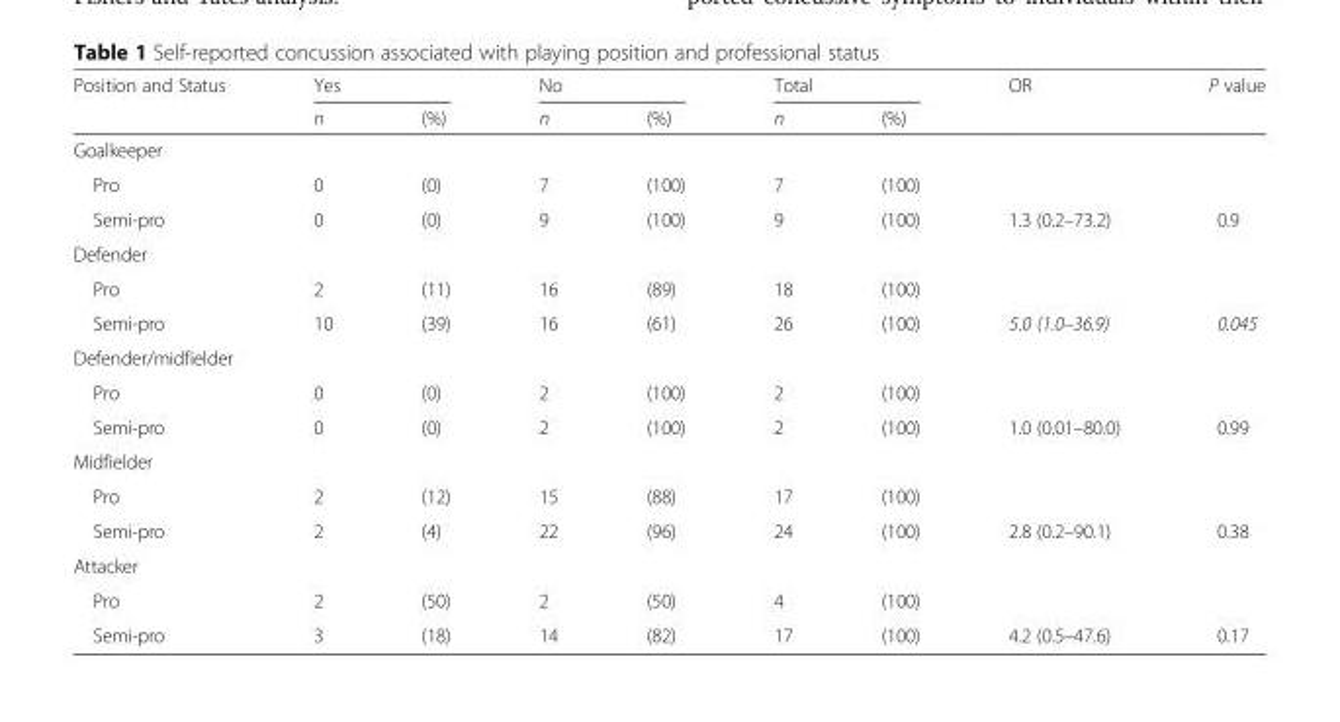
<table><thead><tr><td rowspan="2">Position and Status</td><td colspan="2">Yes</td><td colspan="2">No</td><td colspan="2">Total</td><td rowspan="2">OR</td><td rowspan="2">P value</td></tr><tr><td>n</td><td>(%)</td><td>n</td><td>(%)</td><td>n</td><td>(%)</td></tr></thead><tbody><tr><td colspan="9">Goalkeeper</td></tr><tr><td>Pro</td><td>0</td><td>(0)</td><td>7</td><td>(100)</td><td>7</td><td>(100)</td><td></td><td></td></tr><tr><td>Semi-pro</td><td>0</td><td>(0)</td><td>9</td><td>(100)</td><td>9</td><td>(100)</td><td>1.3 (0.2–73.2)</td><td>0.9</td></tr><tr><td colspan="9">Defender</td></tr><tr><td>Pro</td><td>2</td><td>(11)</td><td>16</td><td>(89)</td><td>18</td><td>(100)</td><td></td><td></td></tr><tr><td>Semi-pro</td><td>10</td><td>(39)</td><td>16</td><td>(61)</td><td>26</td><td>(100)</td><td>5.0 (1.0–36.9)</td><td>0.045</td></tr><tr><td colspan="9">Defender/midfielder</td></tr><tr><td>Pro</td><td>0</td><td>(0)</td><td>2</td><td>(100)</td><td>2</td><td>(100)</td><td></td><td></td></tr><tr><td>Semi-pro</td><td>0</td><td>(0)</td><td>2</td><td>(100)</td><td>2</td><td>(100)</td><td>1.0 (0.01–80.0)</td><td>0.99</td></tr><tr><td colspan="9">Midfielder</td></tr><tr><td>Pro</td><td>2</td><td>(12)</td><td>15</td><td>(88)</td><td>17</td><td>(100)</td><td></td><td></td></tr><tr><td>Semi-pro</td><td>2</td><td>(4)</td><td>22</td><td>(96)</td><td>24</td><td>(100)</td><td>2.8 (0.2–90.1)</td><td>0.38</td></tr><tr><td colspan="9">Attacker</td></tr><tr><td>Pro</td><td>2</td><td>(50)</td><td>2</td><td>(50)</td><td>4</td><td>(100)</td><td></td><td></td></tr><tr><td>Semi-pro</td><td>3</td><td>(18)</td><td>14</td><td>(82)</td><td>17</td><td>(100)</td><td>4.2 (0.5–47.6)</td><td>0.17</td></tr></tbody></table>